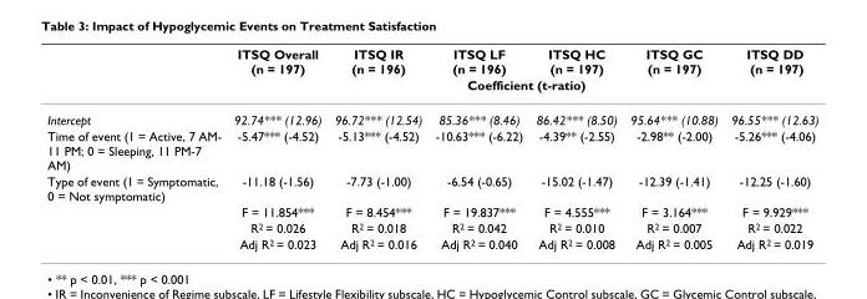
<table><thead><tr><td rowspan="2"></td><td>ITSQ Overall (n = 197)</td><td>ITSQ IR (n = 196)</td><td>ITSQ LF (n = 196)</td><td>ITSQ HC (n = 197)</td><td>ITSQ GC (n = 197)</td><td>ITSQ DD (n = 197)</td></tr><tr><td colspan="6">Coefficient (t-ratio)</td></tr></thead><tbody><tr><td>Intercept</td><td>92.74*** (12.96)</td><td>96.72*** (12.54)</td><td>85.36*** (8.46)</td><td>86.42*** (8.50)</td><td>95.64*** (10.88)</td><td>96.55*** (12.63)</td></tr><tr><td>Time of event (1 = Active, 7 AM- 11 PM; 0 = Sleeping, 11 PM-7 AM)</td><td>-5.47*** (-4.52)</td><td>-5.13*** (-4.52)</td><td>-10.63*** (-6.22)</td><td>-4.39** (-2.55)</td><td>-2.98** (-2.00)</td><td>-5.26*** (-4.06)</td></tr><tr><td rowspan="4">Type of event (1 = Symptomatic, 0 = Not symptomatic)</td><td>-11.18 (-1.56)</td><td>-7.73 (-1.00)</td><td>-6.54 (-0.65)</td><td>-15.02 (-1.47)</td><td>-12.39 (-1.41)</td><td>-12.25 (-1.60)</td></tr><tr><td>F = 11.854***</td><td>F = 8.454***</td><td>F = 19.837***</td><td>F = 4.555***</td><td>F = 3.164***</td><td>F = 9.929***</td></tr><tr><td>R<sup>2</sup> = 0.026</td><td>R<sup>2</sup> = 0.018</td><td>R<sup>2</sup> = 0.042</td><td>R<sup>2</sup> = 0.010</td><td>R<sup>2</sup> = 0.007</td><td>R<sup>2</sup> = 0.022</td></tr><tr><td>Adj R<sup>2</sup> = 0.023</td><td>Adj R<sup>2</sup> = 0.016</td><td>Adj R<sup>2</sup> = 0.040</td><td>Adj R<sup>2</sup> = 0.008</td><td>Adj R<sup>2</sup> = 0.005</td><td>Adj R<sup>2</sup> = 0.019</td></tr></tbody></table>